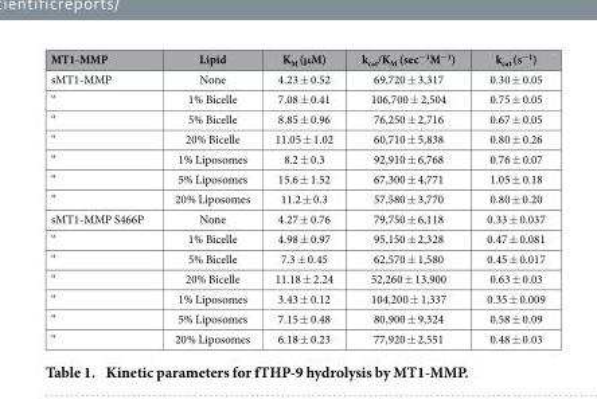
<table><thead><tr><td>MT1-MMP</td><td>Lipid</td><td>K<sub>M</sub> (μM)</td><td>k<sub>cat</sub>/K<sub>M</sub> (sec<sup>−1</sup>M<sup>−1</sup>)</td><td>k<sub>cat</sub> (s<sup>−1</sup>)</td></tr></thead><tbody><tr><td>sMT1-MMP</td><td>None</td><td>4.23 ± 0.52</td><td>69,720 ± 3,317</td><td>0.30 ± 0.05</td></tr><tr><td>“</td><td>1% Bicelle</td><td>7.08 ± 0.41</td><td>106,700 ± 2,504</td><td>0.75 ± 0.05</td></tr><tr><td>“</td><td>5% Bicelle</td><td>8.85 ± 0.96</td><td>76,250 ± 2,716</td><td>0.67 ± 0.05</td></tr><tr><td>“</td><td>20% Bicelle</td><td>11.05 ± 1.02</td><td>60,710 ± 5,838</td><td>0.80 ± 0.26</td></tr><tr><td>“</td><td>1% Liposomes</td><td>8.2 ± 0.3</td><td>92,910 ± 6,768</td><td>0.76 ± 0.07</td></tr><tr><td>“</td><td>5% Liposomes</td><td>15.6 ± 1.52</td><td>67,300 ± 4,771</td><td>1.05 ± 0.18</td></tr><tr><td>“</td><td>20% Liposomes</td><td>11.2 ± 0.3</td><td>57,580 ± 3,770</td><td>0.80 ± 0.20</td></tr><tr><td>sMT1-MMP S466P</td><td>None</td><td>4.27 ± 0.76</td><td>79,750 ± 6,118</td><td>0.33 ± 0.037</td></tr><tr><td>“</td><td>1% Bicelle</td><td>4.98 ± 0.97</td><td>95,150 ± 2,328</td><td>0.47 ± 0.081</td></tr><tr><td>“</td><td>5% Bicelle</td><td>7.3 ± 0.45</td><td>62,570 ± 1,580</td><td>0.45 ± 0.017</td></tr><tr><td>“</td><td>20% Bicelle</td><td>11.18 ± 2.24</td><td>52,260 ± 13,900</td><td>0.63 ± 0.03</td></tr><tr><td>“</td><td>1% Liposomes</td><td>3.43 ± 0.12</td><td>104,200 ± 1,337</td><td>0.35 ± 0.009</td></tr><tr><td>“</td><td>5% Liposomes</td><td>7.15 ± 0.48</td><td>80,900 ± 9,324</td><td>0.58 ± 0.09</td></tr><tr><td>“</td><td>20% Liposomes</td><td>6.18 ± 0.23</td><td>77,920 ± 2,551</td><td>0.48 ± 0.03</td></tr></tbody></table>